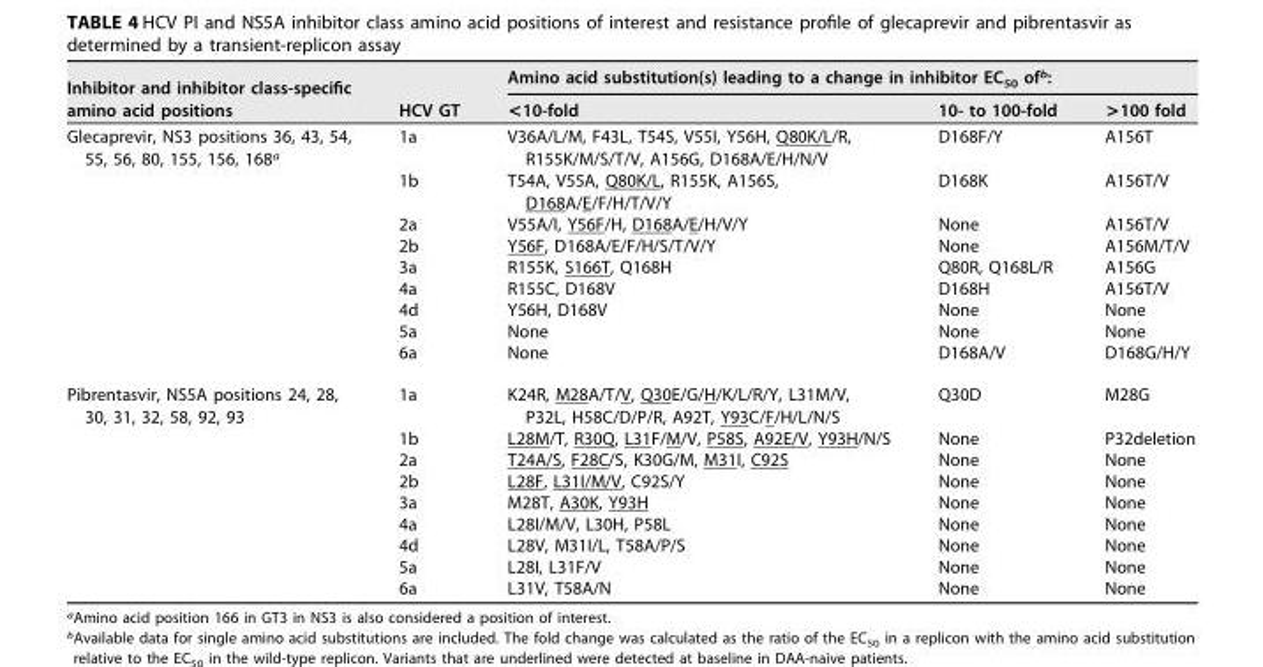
<table><thead><tr><td rowspan="2">Inhibitor and inhibitor class-specific amino acid positions</td><td rowspan="2">HCV GT</td><td colspan="3">Amino acid substitution(s) leading to a change in inhibitor EC<sub>50</sub> of<sup>b</sup>:</td></tr><tr><td>&lt;10-fold</td><td>10- to 100-fold</td><td>&gt;100 fold</td></tr></thead><tbody><tr><td rowspan="9">Glecaprevir, NS3 positions 36, 43, 54, 55, 56, 80, 155, 156, 168<sup>a</sup></td><td>1a</td><td>V36A/L/M, F43L, T54S, V55I, Y56H, Q80K/L/R, R155K/M/S/T/V, A156G, D168A/E/H/N/V</td><td>D168F/Y</td><td>A156T</td></tr><tr><td>1b</td><td>T54A, V55A, Q80K/L, R155K, A156S, D168A/E/F/H/T/V/Y</td><td>D168K</td><td>A156T/V</td></tr><tr><td>2a</td><td>V55A/I, Y56F/H, D168A/E/H/V/Y</td><td>None</td><td>A156T/V</td></tr><tr><td>2b</td><td>Y56F, D168A/E/F/H/S/T/V/Y</td><td>None</td><td>A156M/T/V</td></tr><tr><td>3a</td><td>R155K, S166T, Q168H</td><td>Q80R, Q168L/R</td><td>A156G</td></tr><tr><td>4a</td><td>R155C, D168V</td><td>D168H</td><td>A156T/V</td></tr><tr><td>4d</td><td>Y56H, D168V</td><td>None</td><td>None</td></tr><tr><td>5a</td><td>None</td><td>None</td><td>None</td></tr><tr><td>6a</td><td>None</td><td>D168A/V</td><td>D168G/H/Y</td></tr><tr><td rowspan="9">Pibrentasvir, NS5A positions 24, 28, 30, 31, 32, 58, 92, 93</td><td>1a</td><td>K24R, M28A/T/V, Q30E/G/H/K/L/R/Y, L31M/V, P32L, H58C/D/P/R, A92T, Y93C/F/H/L/N/S</td><td>Q30D</td><td>M28G</td></tr><tr><td>1b</td><td>L28M/T, R30Q, L31F/M/V, P58S, A92E/V, Y93H/N/S</td><td>None</td><td>P32deletion</td></tr><tr><td>2a</td><td>T24A/S, F28C/S, K30G/M, M31I, C92S</td><td>None</td><td>None</td></tr><tr><td>2b</td><td>L28F, L31I/M/V, C92S/Y</td><td>None</td><td>None</td></tr><tr><td>3a</td><td>M28T, A30K, Y93H</td><td>None</td><td>None</td></tr><tr><td>4a</td><td>L28I/M/V, L30H, P58L</td><td>None</td><td>None</td></tr><tr><td>4d</td><td>L28V, M31I/L, T58A/P/S</td><td>None</td><td>None</td></tr><tr><td>5a</td><td>L28I, L31F/V</td><td>None</td><td>None</td></tr><tr><td>6a</td><td>L31V, T58A/N</td><td>None</td><td>None</td></tr></tbody></table>